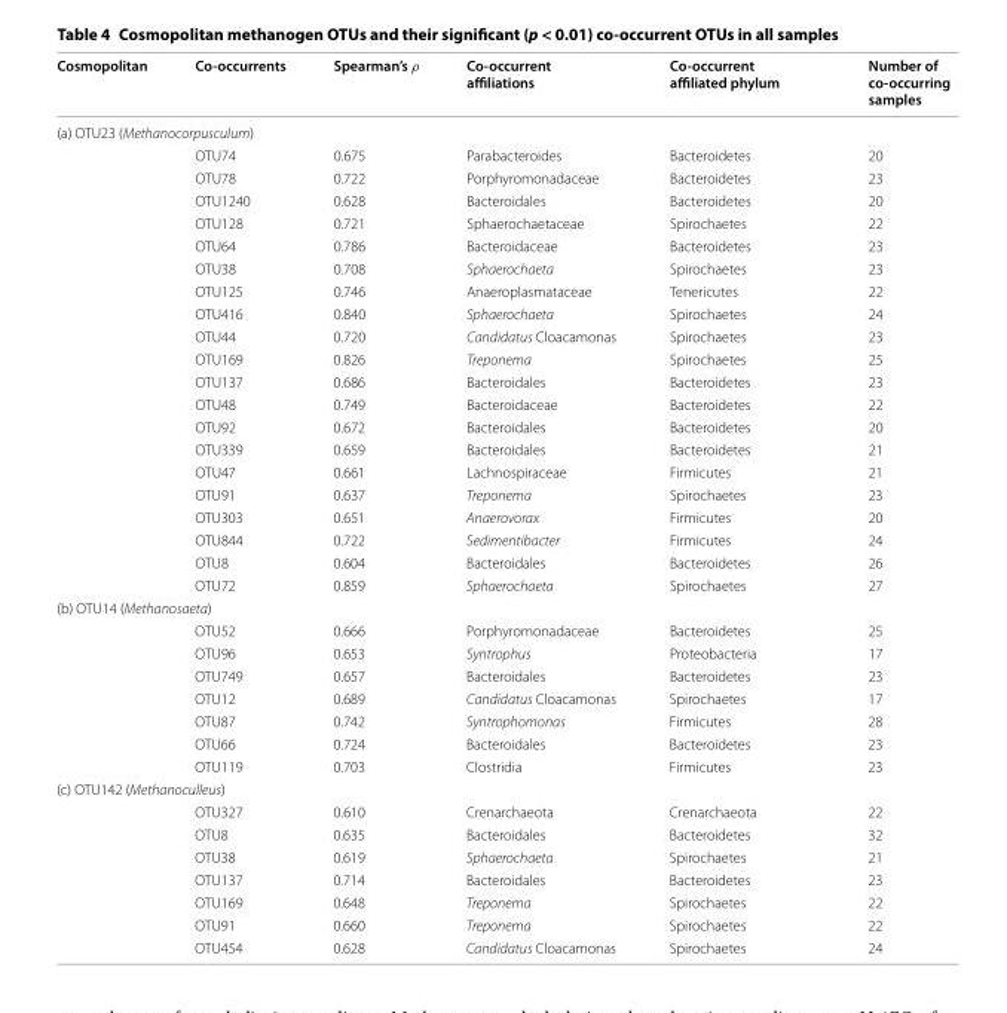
<table><thead><tr><td>Cosmopolitan</td><td>Co‑occurrents</td><td>Spearman’s ρ</td><td>Co‑occurrent affiliations</td><td>Co‑occurrent affiliated phylum</td><td>Number of co‑occurring samples</td></tr></thead><tbody><tr><td colspan="6">(a) OTU23 (Methanocorpusculum)</td></tr><tr><td></td><td>OTU74</td><td>0.675</td><td>Parabacteroides</td><td>Bacteroidetes</td><td>20</td></tr><tr><td></td><td>OTU78</td><td>0.722</td><td>Porphyromonadaceae</td><td>Bacteroidetes</td><td>23</td></tr><tr><td></td><td>OTU1240</td><td>0.628</td><td>Bacteroidales</td><td>Bacteroidetes</td><td>20</td></tr><tr><td></td><td>OTU128</td><td>0.721</td><td>Sphaerochaetaceae</td><td>Spirochaetes</td><td>22</td></tr><tr><td></td><td>OTU64</td><td>0.786</td><td>Bacteroidaceae</td><td>Bacteroidetes</td><td>23</td></tr><tr><td></td><td>OTU38</td><td>0.708</td><td>Sphaerochaeta</td><td>Spirochaetes</td><td>23</td></tr><tr><td></td><td>OTU125</td><td>0.746</td><td>Anaeroplasmataceae</td><td>Tenericutes</td><td>22</td></tr><tr><td></td><td>OTU416</td><td>0.840</td><td>Sphaerochaeta</td><td>Spirochaetes</td><td>24</td></tr><tr><td></td><td>OTU44</td><td>0.720</td><td>Candidatus Cloacamonas</td><td>Spirochaetes</td><td>23</td></tr><tr><td></td><td>OTU169</td><td>0.826</td><td>Treponema</td><td>Spirochaetes</td><td>25</td></tr><tr><td></td><td>OTU137</td><td>0.686</td><td>Bacteroidales</td><td>Bacteroidetes</td><td>23</td></tr><tr><td></td><td>OTU48</td><td>0.749</td><td>Bacteroidaceae</td><td>Bacteroidetes</td><td>22</td></tr><tr><td></td><td>OTU92</td><td>0.672</td><td>Bacteroidales</td><td>Bacteroidetes</td><td>20</td></tr><tr><td></td><td>OTU339</td><td>0.659</td><td>Bacteroidales</td><td>Bacteroidetes</td><td>21</td></tr><tr><td></td><td>OTU47</td><td>0.661</td><td>Lachnospiraceae</td><td>Firmicutes</td><td>21</td></tr><tr><td></td><td>OTU91</td><td>0.637</td><td>Treponema</td><td>Spirochaetes</td><td>23</td></tr><tr><td></td><td>OTU303</td><td>0.651</td><td>Anaerovorax</td><td>Firmicutes</td><td>20</td></tr><tr><td></td><td>OTU844</td><td>0.722</td><td>Sedimentibacter</td><td>Firmicutes</td><td>24</td></tr><tr><td></td><td>OTU8</td><td>0.604</td><td>Bacteroidales</td><td>Bacteroidetes</td><td>26</td></tr><tr><td></td><td>OTU72</td><td>0.859</td><td>Sphaerochaeta</td><td>Spirochaetes</td><td>27</td></tr><tr><td colspan="6">(b) OTU14 (Methanosaeta)</td></tr><tr><td></td><td>OTU52</td><td>0.666</td><td>Porphyromonadaceae</td><td>Bacteroidetes</td><td>25</td></tr><tr><td></td><td>OTU96</td><td>0.653</td><td>Syntrophus</td><td>Proteobacteria</td><td>17</td></tr><tr><td></td><td>OTU749</td><td>0.657</td><td>Bacteroidales</td><td>Bacteroidetes</td><td>23</td></tr><tr><td></td><td>OTU12</td><td>0.689</td><td>Candidatus Cloacamonas</td><td>Spirochaetes</td><td>17</td></tr><tr><td></td><td>OTU87</td><td>0.742</td><td>Syntrophomonas</td><td>Firmicutes</td><td>28</td></tr><tr><td></td><td>OTU66</td><td>0.724</td><td>Bacteroidales</td><td>Bacteroidetes</td><td>23</td></tr><tr><td></td><td>OTU119</td><td>0.703</td><td>Clostridia</td><td>Firmicutes</td><td>23</td></tr><tr><td colspan="6">(c) OTU142 (Methanoculleus)</td></tr><tr><td></td><td>OTU327</td><td>0.610</td><td>Crenarchaeota</td><td>Crenarchaeota</td><td>22</td></tr><tr><td></td><td>OTU8</td><td>0.635</td><td>Bacteroidales</td><td>Bacteroidetes</td><td>32</td></tr><tr><td></td><td>OTU38</td><td>0.619</td><td>Sphaerochaeta</td><td>Spirochaetes</td><td>21</td></tr><tr><td></td><td>OTU137</td><td>0.714</td><td>Bacteroidales</td><td>Bacteroidetes</td><td>23</td></tr><tr><td></td><td>OTU169</td><td>0.648</td><td>Treponema</td><td>Spirochaetes</td><td>22</td></tr><tr><td></td><td>OTU91</td><td>0.660</td><td>Treponema</td><td>Spirochaetes</td><td>22</td></tr><tr><td></td><td>OTU454</td><td>0.628</td><td>Candidatus Cloacamonas</td><td>Spirochaetes</td><td>24</td></tr></tbody></table>